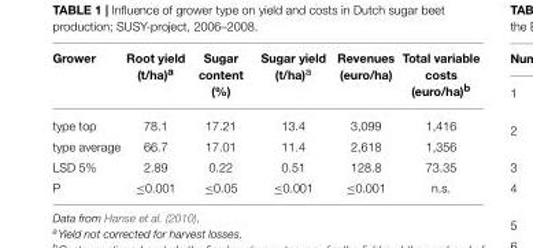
<table><thead><tr><td>Grower</td><td>Root yield (t/ha)<sup>a</sup></td><td>Sugar content (%)</td><td>Sugar yield (t/ha)<sup>a</sup></td><td>Revenues (euro/ha)</td><td>Total variable costs (euro/ha)<sup>b</sup></td></tr></thead><tbody><tr><td>type top</td><td>78.1</td><td>17.21</td><td>13.4</td><td>3,099</td><td>1,416</td></tr><tr><td>type average</td><td>66.7</td><td>17.01</td><td>11.4</td><td>2,618</td><td>1,356</td></tr><tr><td>LSD 5%</td><td>2.89</td><td>0.22</td><td>0.51</td><td>128.8</td><td>73.35</td></tr><tr><td>P</td><td>≤0.001</td><td>≤0.05</td><td>≤0.001</td><td>≤0.001</td><td>n.s.</td></tr></tbody></table>